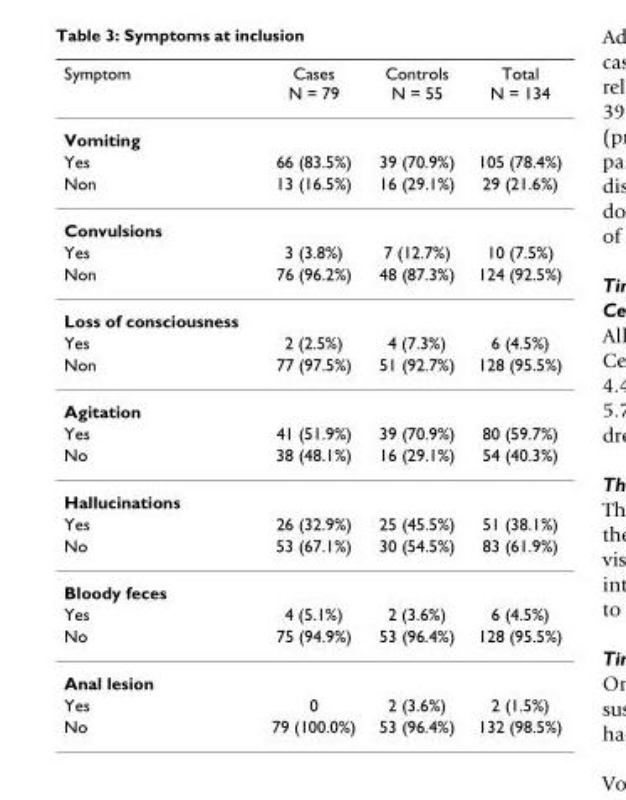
<table><thead><tr><td>Symptom</td><td>Cases N = 79</td><td>Controls N = 55</td><td>Total N = 134</td></tr></thead><tbody><tr><td colspan="4">Vomiting</td></tr><tr><td>Yes</td><td>66 (83.5%)</td><td>39 (70.9%)</td><td>105 (78.4%)</td></tr><tr><td>Non</td><td>13 (16.5%)</td><td>16 (29.1%)</td><td>29 (21.6%)</td></tr><tr><td colspan="4">Convulsions</td></tr><tr><td>Yes</td><td>3 (3.8%)</td><td>7 (12.7%)</td><td>10 (7.5%)</td></tr><tr><td>Non</td><td>76 (96.2%)</td><td>48 (87.3%)</td><td>124 (92.5%)</td></tr><tr><td colspan="4">Loss of consciousness</td></tr><tr><td>Yes</td><td>2 (2.5%)</td><td>4 (7.3%)</td><td>6 (4.5%)</td></tr><tr><td>Non</td><td>77 (97.5%)</td><td>51 (92.7%)</td><td>128 (95.5%)</td></tr><tr><td colspan="4">Agitation</td></tr><tr><td>Yes</td><td>41 (51.9%)</td><td>39 (70.9%)</td><td>80 (59.7%)</td></tr><tr><td>No</td><td>38 (48.1%)</td><td>16 (29.1%)</td><td>54 (40.3%)</td></tr><tr><td colspan="4">Hallucinations</td></tr><tr><td>Yes</td><td>26 (32.9%)</td><td>25 (45.5%)</td><td>51 (38.1%)</td></tr><tr><td>No</td><td>53 (67.1%)</td><td>30 (54.5%)</td><td>83 (61.9%)</td></tr><tr><td colspan="4">Bloody feces</td></tr><tr><td>Yes</td><td>4 (5.1%)</td><td>2 (3.6%)</td><td>6 (4.5%)</td></tr><tr><td>No</td><td>75 (94.9%)</td><td>53 (96.4%)</td><td>128 (95.5%)</td></tr><tr><td colspan="4">Anal lesion</td></tr><tr><td>Yes</td><td>0</td><td>2 (3.6%)</td><td>2 (1.5%)</td></tr><tr><td>No</td><td>79 (100.0%)</td><td>53 (96.4%)</td><td>132 (98.5%)</td></tr></tbody></table>